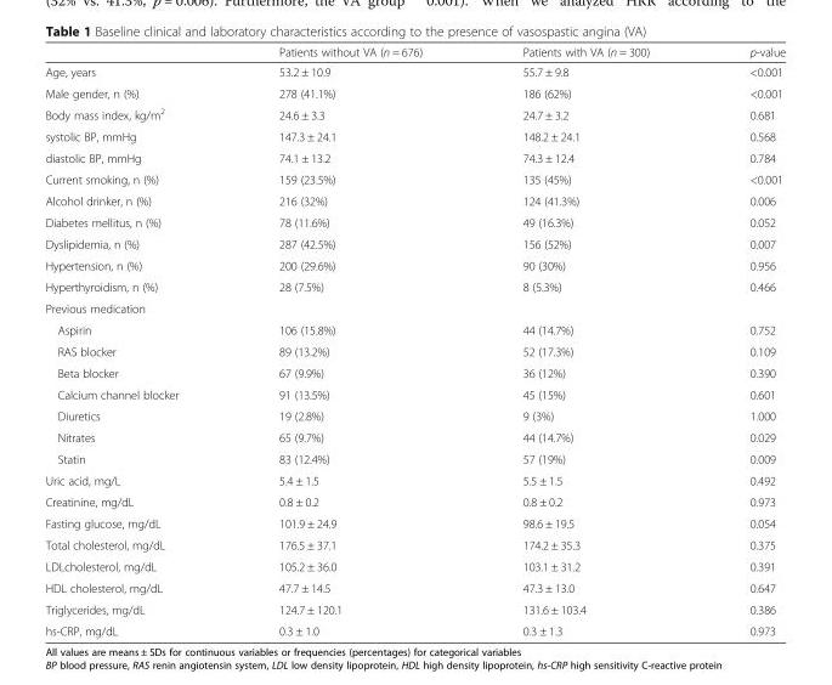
<table><thead><tr><td></td><td>Patients without VA (n = 676)</td><td>Patients with VA (n = 300)</td><td>p-value</td></tr></thead><tbody><tr><td>Age, years</td><td>53.2 ± 10.9</td><td>55.7 ± 9.8</td><td>&lt;0.001</td></tr><tr><td>Male gender, n (%)</td><td>278 (41.1%)</td><td>186 (62%)</td><td>&lt;0.001</td></tr><tr><td>Body mass index, kg/m<sup>2</sup></td><td>24.6 ± 3.3</td><td>24.7 ± 3.2</td><td>0.681</td></tr><tr><td>systolic BP, mmHg</td><td>147.3 ± 24.1</td><td>148.2 ± 24.1</td><td>0.568</td></tr><tr><td>diastolic BP, mmHg</td><td>74.1 ± 13.2</td><td>74.3 ± 12.4</td><td>0.784</td></tr><tr><td>Current smoking, n (%)</td><td>159 (23.5%)</td><td>135 (45%)</td><td>&lt;0.001</td></tr><tr><td>Alcohol drinker, n (%)</td><td>216 (32%)</td><td>124 (41.3%)</td><td>0.006</td></tr><tr><td>Diabetes mellitus, n (%)</td><td>78 (11.6%)</td><td>49 (16.3%)</td><td>0.052</td></tr><tr><td>Dyslipidemia, n (%)</td><td>287 (42.5%)</td><td>156 (52%)</td><td>0.007</td></tr><tr><td>Hypertension, n (%)</td><td>200 (29.6%)</td><td>90 (30%)</td><td>0.956</td></tr><tr><td>Hyperthyroidism, n (%)</td><td>28 (7.5%)</td><td>8 (5.3%)</td><td>0.466</td></tr><tr><td colspan="4">Previous medication</td></tr><tr><td>Aspirin</td><td>106 (15.8%)</td><td>44 (14.7%)</td><td>0.752</td></tr><tr><td>RAS blocker</td><td>89 (13.2%)</td><td>52 (17.3%)</td><td>0.109</td></tr><tr><td>Beta blocker</td><td>67 (9.9%)</td><td>36 (12%)</td><td>0.390</td></tr><tr><td>Calcium channel blocker</td><td>91 (13.5%)</td><td>45 (15%)</td><td>0.601</td></tr><tr><td>Diuretics</td><td>19 (2.8%)</td><td>9 (3%)</td><td>1.000</td></tr><tr><td>Nitrates</td><td>65 (9.7%)</td><td>44 (14.7%)</td><td>0.029</td></tr><tr><td>Statin</td><td>83 (12.4%)</td><td>57 (19%)</td><td>0.009</td></tr><tr><td>Uric acid, mg/L</td><td>5.4 ± 1.5</td><td>5.5 ± 1.5</td><td>0.492</td></tr><tr><td>Creatinine, mg/dL</td><td>0.8 ± 0.2</td><td>0.8 ± 0.2</td><td>0.973</td></tr><tr><td>Fasting glucose, mg/dL</td><td>101.9 ± 24.9</td><td>98.6 ± 19.5</td><td>0.054</td></tr><tr><td>Total cholesterol, mg/dL</td><td>176.5 ± 37.1</td><td>174.2 ± 35.3</td><td>0.375</td></tr><tr><td>LDLcholesterol, mg/dL</td><td>105.2 ± 36.0</td><td>103.1 ± 31.2</td><td>0.391</td></tr><tr><td>HDL cholesterol, mg/dL</td><td>47.7 ± 14.5</td><td>47.3 ± 13.0</td><td>0.647</td></tr><tr><td>Triglycerides, mg/dL</td><td>124.7 ± 120.1</td><td>131.6 ± 103.4</td><td>0.386</td></tr><tr><td>hs-CRP, mg/dL</td><td>0.3 ± 1.0</td><td>0.3 ± 1.3</td><td>0.973</td></tr></tbody></table>